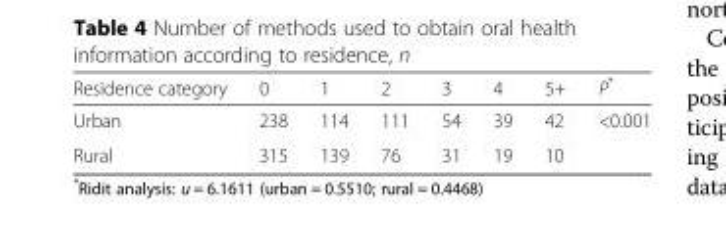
<table><thead><tr><td>Residence category</td><td>0</td><td>1</td><td>2</td><td>3</td><td>4</td><td>5+</td><td>P*</td></tr></thead><tbody><tr><td>Urban</td><td>238</td><td>114</td><td>111</td><td>54</td><td>39</td><td>42</td><td rowspan="2">&lt;0.001</td></tr><tr><td>Rural</td><td>315</td><td>139</td><td>76</td><td>31</td><td>19</td><td>10</td></tr></tbody></table>